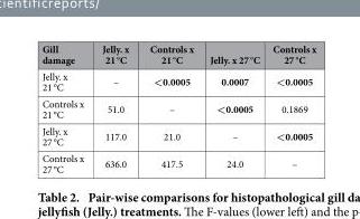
<table><thead><tr><td>Gill damage</td><td>Jelly. x 21 °C</td><td>Controls x 21 °C</td><td>Jelly. x 27 °C</td><td>Controls x 27 °C</td></tr></thead><tbody><tr><td>Jelly. x 21 °C</td><td>–</td><td>&lt;0.0005</td><td>0.0007</td><td>&lt;0.0005</td></tr><tr><td>Controls x 21 °C</td><td>51.0</td><td>–</td><td>&lt;0.0005</td><td>0.1869</td></tr><tr><td>Jelly. x 27 °C</td><td>117.0</td><td>21.0</td><td>–</td><td>&lt;0.0005</td></tr><tr><td>Controls x 27 °C</td><td>636.0</td><td>417.5</td><td>24.0</td><td>–</td></tr></tbody></table>